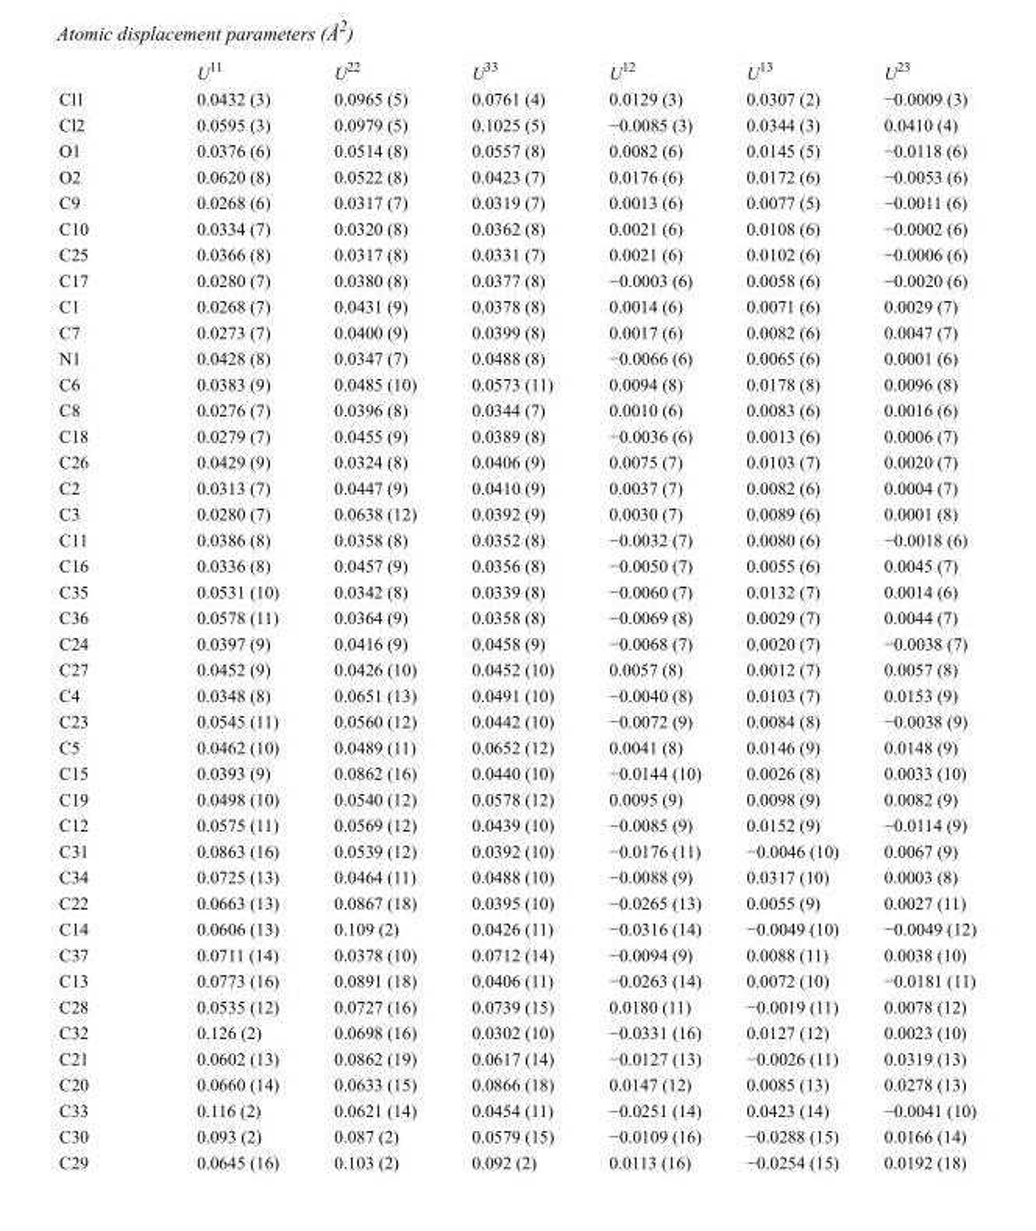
<table><thead><tr><td></td><td>U<sup>11</sup></td><td>U<sup>22</sup></td><td>U<sup>33</sup></td><td>U<sup>12</sup></td><td>U<sup>13</sup></td><td>U<sup>23</sup></td></tr></thead><tbody><tr><td>Cl1</td><td>0.0432 (3)</td><td>0.0965 (5)</td><td>0.0761 (4)</td><td>0.0129 (3)</td><td>0.0307 (2)</td><td>−0.0009 (3)</td></tr><tr><td>Cl2</td><td>0.0595 (3)</td><td>0.0979 (5)</td><td>0.1025 (5)</td><td>−0.0085 (3)</td><td>0.0344 (3)</td><td>0.0410 (4)</td></tr><tr><td>O1</td><td>0.0376 (6)</td><td>0.0514 (8)</td><td>0.0557 (8)</td><td>0.0082 (6)</td><td>0.0145 (5)</td><td>−0.0118 (6)</td></tr><tr><td>O2</td><td>0.0620 (8)</td><td>0.0522 (8)</td><td>0.0423 (7)</td><td>0.0176 (6)</td><td>0.0172 (6)</td><td>−0.0053 (6)</td></tr><tr><td>C9</td><td>0.0268 (6)</td><td>0.0317 (7)</td><td>0.0319 (7)</td><td>0.0013 (6)</td><td>0.0077 (5)</td><td>−0.0011 (6)</td></tr><tr><td>C10</td><td>0.0334 (7)</td><td>0.0320 (8)</td><td>0.0362 (8)</td><td>0.0021 (6)</td><td>0.0108 (6)</td><td>−0.0002 (6)</td></tr><tr><td>C25</td><td>0.0366 (8)</td><td>0.0317 (8)</td><td>0.0331 (7)</td><td>0.0021 (6)</td><td>0.0102 (6)</td><td>−0.0006 (6)</td></tr><tr><td>C17</td><td>0.0280 (7)</td><td>0.0380 (8)</td><td>0.0377 (8)</td><td>−0.0003 (6)</td><td>0.0058 (6)</td><td>−0.0020 (6)</td></tr><tr><td>C1</td><td>0.0268 (7)</td><td>0.0431 (9)</td><td>0.0378 (8)</td><td>0.0014 (6)</td><td>0.0071 (6)</td><td>0.0029 (7)</td></tr><tr><td>C7</td><td>0.0273 (7)</td><td>0.0400 (9)</td><td>0.0399 (8)</td><td>0.0017 (6)</td><td>0.0082 (6)</td><td>0.0047 (7)</td></tr><tr><td>N1</td><td>0.0428 (8)</td><td>0.0347 (7)</td><td>0.0488 (8)</td><td>−0.0066 (6)</td><td>0.0065 (6)</td><td>0.0001 (6)</td></tr><tr><td>C6</td><td>0.0383 (9)</td><td>0.0485 (10)</td><td>0.0573 (11)</td><td>0.0094 (8)</td><td>0.0178 (8)</td><td>0.0096 (8)</td></tr><tr><td>C8</td><td>0.0276 (7)</td><td>0.0396 (8)</td><td>0.0344 (7)</td><td>0.0010 (6)</td><td>0.0083 (6)</td><td>0.0016 (6)</td></tr><tr><td>C18</td><td>0.0279 (7)</td><td>0.0455 (9)</td><td>0.0389 (8)</td><td>−0.0036 (6)</td><td>0.0013 (6)</td><td>0.0006 (7)</td></tr><tr><td>C26</td><td>0.0429 (9)</td><td>0.0324 (8)</td><td>0.0406 (9)</td><td>0.0075 (7)</td><td>0.0103 (7)</td><td>0.0020 (7)</td></tr><tr><td>C2</td><td>0.0313 (7)</td><td>0.0447 (9)</td><td>0.0410 (9)</td><td>0.0037 (7)</td><td>0.0082 (6)</td><td>0.0004 (7)</td></tr><tr><td>C3</td><td>0.0280 (7)</td><td>0.0638 (12)</td><td>0.0392 (9)</td><td>0.0030 (7)</td><td>0.0089 (6)</td><td>0.0001 (8)</td></tr><tr><td>C11</td><td>0.0386 (8)</td><td>0.0358 (8)</td><td>0.0352 (8)</td><td>−0.0032 (7)</td><td>0.0080 (6)</td><td>−0.0018 (6)</td></tr><tr><td>C16</td><td>0.0336 (8)</td><td>0.0457 (9)</td><td>0.0356 (8)</td><td>−0.0050 (7)</td><td>0.0055 (6)</td><td>0.0045 (7)</td></tr><tr><td>C35</td><td>0.0531 (10)</td><td>0.0342 (8)</td><td>0.0339 (8)</td><td>−0.0060 (7)</td><td>0.0132 (7)</td><td>0.0014 (6)</td></tr><tr><td>C36</td><td>0.0578 (11)</td><td>0.0364 (9)</td><td>0.0358 (8)</td><td>−0.0069 (8)</td><td>0.0029 (7)</td><td>0.0044 (7)</td></tr><tr><td>C24</td><td>0.0397 (9)</td><td>0.0416 (9)</td><td>0.0458 (9)</td><td>−0.0068 (7)</td><td>0.0020 (7)</td><td>−0.0038 (7)</td></tr><tr><td>C27</td><td>0.0452 (9)</td><td>0.0426 (10)</td><td>0.0452 (10)</td><td>0.0057 (8)</td><td>0.0012 (7)</td><td>0.0057 (8)</td></tr><tr><td>C4</td><td>0.0348 (8)</td><td>0.0651 (13)</td><td>0.0491 (10)</td><td>−0.0040 (8)</td><td>0.0103 (7)</td><td>0.0153 (9)</td></tr><tr><td>C23</td><td>0.0545 (11)</td><td>0.0560 (12)</td><td>0.0442 (10)</td><td>−0.0072 (9)</td><td>0.0084 (8)</td><td>−0.0038 (9)</td></tr><tr><td>C5</td><td>0.0462 (10)</td><td>0.0489 (11)</td><td>0.0652 (12)</td><td>0.0041 (8)</td><td>0.0146 (9)</td><td>0.0148 (9)</td></tr><tr><td>C15</td><td>0.0393 (9)</td><td>0.0862 (16)</td><td>0.0440 (10)</td><td>−0.0144 (10)</td><td>0.0026 (8)</td><td>0.0033 (10)</td></tr><tr><td>C19</td><td>0.0498 (10)</td><td>0.0540 (12)</td><td>0.0578 (12)</td><td>0.0095 (9)</td><td>0.0098 (9)</td><td>0.0082 (9)</td></tr><tr><td>C12</td><td>0.0575 (11)</td><td>0.0569 (12)</td><td>0.0439 (10)</td><td>−0.0085 (9)</td><td>0.0152 (9)</td><td>−0.0114 (9)</td></tr><tr><td>C31</td><td>0.0863 (16)</td><td>0.0539 (12)</td><td>0.0392 (10)</td><td>−0.0176 (11)</td><td>−0.0046 (10)</td><td>0.0067 (9)</td></tr><tr><td>C34</td><td>0.0725 (13)</td><td>0.0464 (11)</td><td>0.0488 (10)</td><td>−0.0088 (9)</td><td>0.0317 (10)</td><td>0.0003 (8)</td></tr><tr><td>C22</td><td>0.0663 (13)</td><td>0.0867 (18)</td><td>0.0395 (10)</td><td>−0.0265 (13)</td><td>0.0055 (9)</td><td>0.0027 (11)</td></tr><tr><td>C14</td><td>0.0606 (13)</td><td>0.109 (2)</td><td>0.0426 (11)</td><td>−0.0316 (14)</td><td>−0.0049 (10)</td><td>−0.0049 (12)</td></tr><tr><td>C37</td><td>0.0711 (14)</td><td>0.0378 (10)</td><td>0.0712 (14)</td><td>−0.0094 (9)</td><td>0.0088 (11)</td><td>0.0038 (10)</td></tr><tr><td>C13</td><td>0.0773 (16)</td><td>0.0891 (18)</td><td>0.0406 (11)</td><td>−0.0263 (14)</td><td>0.0072 (10)</td><td>−0.0181 (11)</td></tr><tr><td>C28</td><td>0.0535 (12)</td><td>0.0727 (16)</td><td>0.0739 (15)</td><td>0.0180 (11)</td><td>−0.0019 (11)</td><td>0.0078 (12)</td></tr><tr><td>C32</td><td>0.126 (2)</td><td>0.0698 (16)</td><td>0.0302 (10)</td><td>−0.0331 (16)</td><td>0.0127 (12)</td><td>0.0023 (10)</td></tr><tr><td>C21</td><td>0.0602 (13)</td><td>0.0862 (19)</td><td>0.0617 (14)</td><td>−0.0127 (13)</td><td>−0.0026 (11)</td><td>0.0319 (13)</td></tr><tr><td>C20</td><td>0.0660 (14)</td><td>0.0633 (15)</td><td>0.0866 (18)</td><td>0.0147 (12)</td><td>0.0085 (13)</td><td>0.0278 (13)</td></tr><tr><td>C33</td><td>0.116 (2)</td><td>0.0621 (14)</td><td>0.0454 (11)</td><td>−0.0251 (14)</td><td>0.0423 (14)</td><td>−0.0041 (10)</td></tr><tr><td>C30</td><td>0.093 (2)</td><td>0.087 (2)</td><td>0.0579 (15)</td><td>−0.0109 (16)</td><td>−0.0288 (15)</td><td>0.0166 (14)</td></tr><tr><td>C29</td><td>0.0645 (16)</td><td>0.103 (2)</td><td>0.092 (2)</td><td>0.0113 (16)</td><td>−0.0254 (15)</td><td>0.0192 (18)</td></tr></tbody></table>